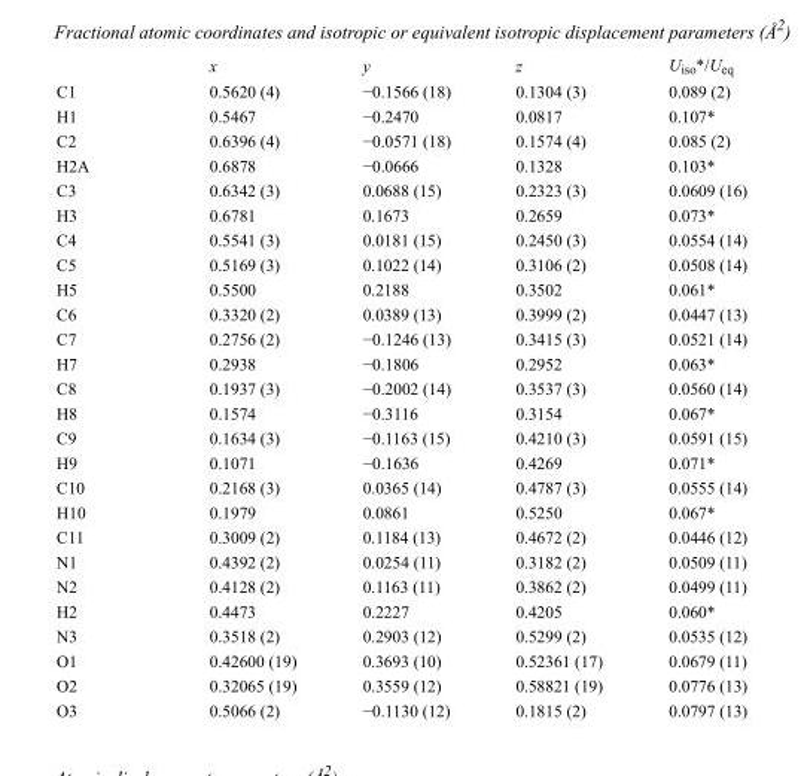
<table><thead><tr><td></td><td>x</td><td>y</td><td>z</td><td>U<sub>iso</sub>*/U<sub>eq</sub></td></tr></thead><tbody><tr><td>C1</td><td>0.5620 (4)</td><td>−0.1566 (18)</td><td>0.1304 (3)</td><td>0.089 (2)</td></tr><tr><td>H1</td><td>0.5467</td><td>−0.2470</td><td>0.0817</td><td>0.107*</td></tr><tr><td>C2</td><td>0.6396 (4)</td><td>−0.0571 (18)</td><td>0.1574 (4)</td><td>0.085 (2)</td></tr><tr><td>H2A</td><td>0.6878</td><td>−0.0666</td><td>0.1328</td><td>0.103*</td></tr><tr><td>C3</td><td>0.6342 (3)</td><td>0.0688 (15)</td><td>0.2323 (3)</td><td>0.0609 (16)</td></tr><tr><td>H3</td><td>0.6781</td><td>0.1673</td><td>0.2659</td><td>0.073*</td></tr><tr><td>C4</td><td>0.5541 (3)</td><td>0.0181 (15)</td><td>0.2450 (3)</td><td>0.0554 (14)</td></tr><tr><td>C5</td><td>0.5169 (3)</td><td>0.1022 (14)</td><td>0.3106 (2)</td><td>0.0508 (14)</td></tr><tr><td>H5</td><td>0.5500</td><td>0.2188</td><td>0.3502</td><td>0.061*</td></tr><tr><td>C6</td><td>0.3320 (2)</td><td>0.0389 (13)</td><td>0.3999 (2)</td><td>0.0447 (13)</td></tr><tr><td>C7</td><td>0.2756 (2)</td><td>−0.1246 (13)</td><td>0.3415 (3)</td><td>0.0521 (14)</td></tr><tr><td>H7</td><td>0.2938</td><td>−0.1806</td><td>0.2952</td><td>0.063*</td></tr><tr><td>C8</td><td>0.1937 (3)</td><td>−0.2002 (14)</td><td>0.3537 (3)</td><td>0.0560 (14)</td></tr><tr><td>H8</td><td>0.1574</td><td>−0.3116</td><td>0.3154</td><td>0.067*</td></tr><tr><td>C9</td><td>0.1634 (3)</td><td>−0.1163 (15)</td><td>0.4210 (3)</td><td>0.0591 (15)</td></tr><tr><td>H9</td><td>0.1071</td><td>−0.1636</td><td>0.4269</td><td>0.071*</td></tr><tr><td>C10</td><td>0.2168 (3)</td><td>0.0365 (14)</td><td>0.4787 (3)</td><td>0.0555 (14)</td></tr><tr><td>H10</td><td>0.1979</td><td>0.0861</td><td>0.5250</td><td>0.067*</td></tr><tr><td>C11</td><td>0.3009 (2)</td><td>0.1184 (13)</td><td>0.4672 (2)</td><td>0.0446 (12)</td></tr><tr><td>N1</td><td>0.4392 (2)</td><td>0.0254 (11)</td><td>0.3182 (2)</td><td>0.0509 (11)</td></tr><tr><td>N2</td><td>0.4128 (2)</td><td>0.1163 (11)</td><td>0.3862 (2)</td><td>0.0499 (11)</td></tr><tr><td>H2</td><td>0.4473</td><td>0.2227</td><td>0.4205</td><td>0.060*</td></tr><tr><td>N3</td><td>0.3518 (2)</td><td>0.2903 (12)</td><td>0.5299 (2)</td><td>0.0535 (12)</td></tr><tr><td>O1</td><td>0.42600 (19)</td><td>0.3693 (10)</td><td>0.52361 (17)</td><td>0.0679 (11)</td></tr><tr><td>O2</td><td>0.32065 (19)</td><td>0.3559 (12)</td><td>0.58821 (19)</td><td>0.0776 (13)</td></tr><tr><td>O3</td><td>0.5066 (2)</td><td>−0.1130 (12)</td><td>0.1815 (2)</td><td>0.0797 (13)</td></tr></tbody></table>